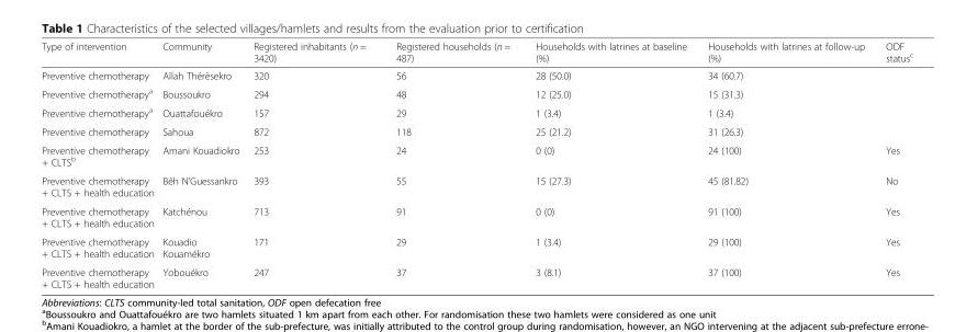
<table><thead><tr><td>Type of intervention</td><td>Community</td><td>Registered inhabitants (n = 3420)</td><td>Registered households (n = 487)</td><td>Households with latrines at baseline (%)</td><td>Households with latrines at follow-up (%)</td><td>ODF status<sup>c</sup></td></tr></thead><tbody><tr><td>Preventive chemotherapy</td><td>Allah Thérèsekro</td><td>320</td><td>56</td><td>28 (50.0)</td><td>34 (60.7)</td><td></td></tr><tr><td>Preventive chemotherapy<sup>a</sup></td><td>Boussoukro</td><td>294</td><td>48</td><td>12 (25.0)</td><td>15 (31.3)</td><td></td></tr><tr><td>Preventive chemotherapy<sup>a</sup></td><td>Ouattafouékro</td><td>157</td><td>29</td><td>1 (3.4)</td><td>1 (3.4)</td><td></td></tr><tr><td>Preventive chemotherapy</td><td>Sahoua</td><td>872</td><td>118</td><td>25 (21.2)</td><td>31 (26.3)</td><td></td></tr><tr><td>Preventive chemotherapy + CLTS<sup>b</sup></td><td>Amani Kouadiokro</td><td>253</td><td>24</td><td>0 (0)</td><td>24 (100)</td><td>Yes</td></tr><tr><td>Preventive chemotherapy + CLTS + health education</td><td>Bêh N’Guessankro</td><td>393</td><td>55</td><td>15 (27.3)</td><td>45 (81.82)</td><td>No</td></tr><tr><td>Preventive chemotherapy + CLTS + health education</td><td>Katchénou</td><td>713</td><td>91</td><td>0 (0)</td><td>91 (100)</td><td>Yes</td></tr><tr><td>Preventive chemotherapy + CLTS + health education</td><td>Kouadio Kouamékro</td><td>171</td><td>29</td><td>1 (3.4)</td><td>29 (100)</td><td>Yes</td></tr><tr><td>Preventive chemotherapy + CLTS + health education</td><td>Yobouékro</td><td>247</td><td>37</td><td>3 (8.1)</td><td>37 (100)</td><td>Yes</td></tr></tbody></table>